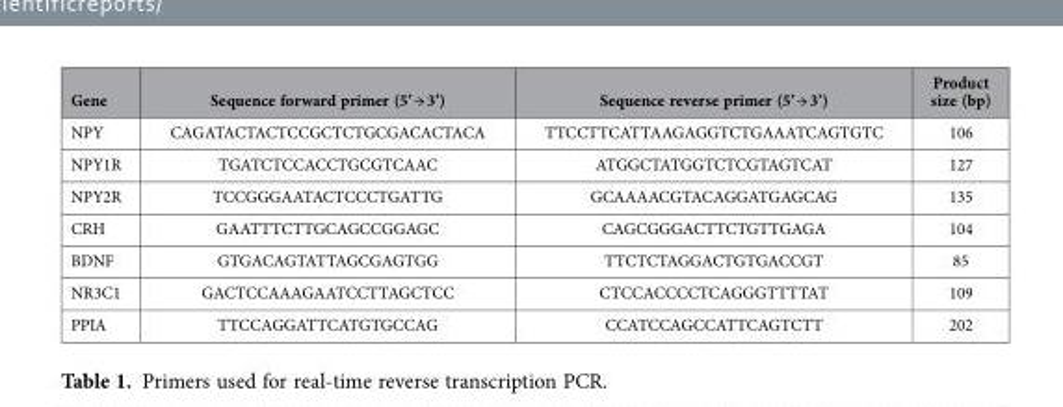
<table><thead><tr><td>Gene</td><td>Sequence forward primer (5’ → 3’)</td><td>Sequence reverse primer (5’ → 3’)</td><td>Product size (bp)</td></tr></thead><tbody><tr><td>NPY</td><td>CAGATACTACTCCGCTCTGCGACACTACA</td><td>TTCCTTCATTAAGAGGTCTGAAATCAGTGTC</td><td>106</td></tr><tr><td>NPY1R</td><td>TGATCTCCACCTGCGTCAAC</td><td>ATGGCTATGGTCTCGTAGTCAT</td><td>127</td></tr><tr><td>NPY2R</td><td>TCCGGGAATACTCCCTGATTG</td><td>GCAAAACGTACAGGATGAGCAG</td><td>135</td></tr><tr><td>CRH</td><td>GAATTTCTTGCAGCCGGAGC</td><td>CAGCGGGACTTCTGTTGAGA</td><td>104</td></tr><tr><td>BDNF</td><td>GTGACAGTATTAGCGAGTGG</td><td>TTCTCTAGGACTGTGACCGT</td><td>85</td></tr><tr><td>NR3C1</td><td>GACTCCAAAGAATCCTTAGCTCC</td><td>CTCCACCCCTCAGGGTTTTAT</td><td>109</td></tr><tr><td>PPIA</td><td>TTCCAGGATTCATGTGCCAG</td><td>CCATCCAGCCATTCAGTCTT</td><td>202</td></tr></tbody></table>